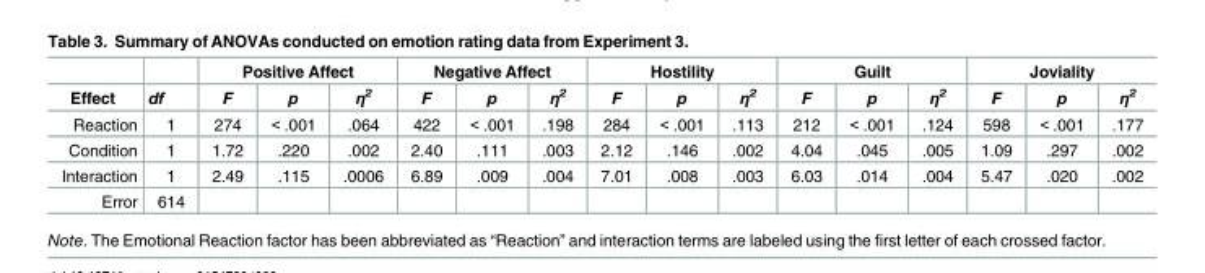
<table><thead><tr><td rowspan="2">Effect</td><td rowspan="2">df</td><td colspan="3">Positive Affect</td><td colspan="3">Negative Affect</td><td colspan="3">Hostility</td><td colspan="3">Guilt</td><td colspan="3">Joviality</td></tr><tr><td>F</td><td>p</td><td>η<sup>2</sup></td><td>F</td><td>p</td><td>η<sup>2</sup></td><td>F</td><td>p</td><td>η<sup>2</sup></td><td>F</td><td>p</td><td>η<sup>2</sup></td><td>F</td><td>p</td><td>η<sup>2</sup></td></tr></thead><tbody><tr><td>Reaction</td><td>1</td><td>274</td><td>&lt; .001</td><td>.064</td><td>422</td><td>&lt; .001</td><td>.198</td><td>284</td><td>&lt; .001</td><td>.113</td><td>212</td><td>&lt; .001</td><td>.124</td><td>598</td><td>&lt; .001</td><td>.177</td></tr><tr><td>Condition</td><td>1</td><td>1.72</td><td>.220</td><td>.002</td><td>2.40</td><td>.111</td><td>.003</td><td>2.12</td><td>.146</td><td>.002</td><td>4.04</td><td>.045</td><td>.005</td><td>1.09</td><td>.297</td><td>.002</td></tr><tr><td>Interaction</td><td>1</td><td>2.49</td><td>.115</td><td>.0006</td><td>6.89</td><td>.009</td><td>.004</td><td>7.01</td><td>.008</td><td>.003</td><td>6.03</td><td>.014</td><td>.004</td><td>5.47</td><td>.020</td><td>.002</td></tr><tr><td>Error</td><td>614</td><td></td><td></td><td></td><td></td><td></td><td></td><td></td><td></td><td></td><td></td><td></td><td></td><td></td><td></td><td></td></tr></tbody></table>